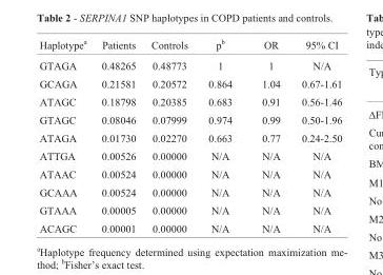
<table><thead><tr><td>Haplotype<sup>a</sup></td><td>Patients</td><td>Controls</td><td>p<sup>b</sup></td><td>OR</td><td>95% CI</td></tr></thead><tbody><tr><td>GTAGA</td><td>0.48265</td><td>0.48773</td><td>1</td><td>1</td><td>N/A</td></tr><tr><td>GCAGA</td><td>0.21581</td><td>0.20572</td><td>0.864</td><td>1.04</td><td>0.67-1.61</td></tr><tr><td>ATAGC</td><td>0.18798</td><td>0.20385</td><td>0.683</td><td>0.91</td><td>0.56-1.46</td></tr><tr><td>GTAGC</td><td>0.08046</td><td>0.07999</td><td>0.974</td><td>0.99</td><td>0.50-1.96</td></tr><tr><td>ATAGA</td><td>0.01730</td><td>0.02270</td><td>0.663</td><td>0.77</td><td>0.24-2.50</td></tr><tr><td>ATTGA</td><td>0.00526</td><td>0.00000</td><td>N/A</td><td>N/A</td><td>N/A</td></tr><tr><td>ATAAC</td><td>0.00524</td><td>0.00000</td><td>N/A</td><td>N/A</td><td>N/A</td></tr><tr><td>GCAAA</td><td>0.00524</td><td>0.00000</td><td>N/A</td><td>N/A</td><td>N/A</td></tr><tr><td>GTAAA</td><td>0.00005</td><td>0.00000</td><td>N/A</td><td>N/A</td><td>N/A</td></tr><tr><td>ACAGC</td><td>0.00001</td><td>0.00000</td><td>N/A</td><td>N/A</td><td>N/A</td></tr></tbody></table>